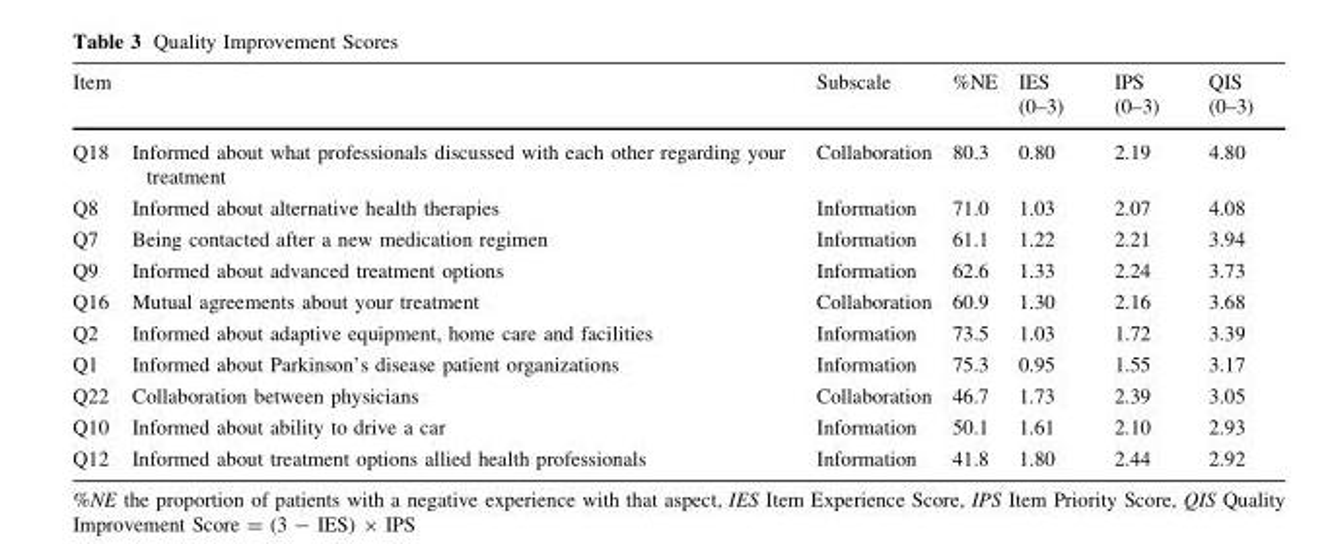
<table><thead><tr><td>Item</td><td></td><td>Subscale</td><td>%NE</td><td>IES (0–3)</td><td>IPS (0–3)</td><td>QIS (0–3)</td></tr></thead><tbody><tr><td>Q18</td><td>Informed about what professionals discussed with each other regarding your treatment</td><td>Collaboration</td><td>80.3</td><td>0.80</td><td>2.19</td><td>4.80</td></tr><tr><td>Q8</td><td>Informed about alternative health therapies</td><td>Information</td><td>71.0</td><td>1.03</td><td>2.07</td><td>4.08</td></tr><tr><td>Q7</td><td>Being contacted after a new medication regimen</td><td>Information</td><td>61.1</td><td>1.22</td><td>2.21</td><td>3.94</td></tr><tr><td>Q9</td><td>Informed about advanced treatment options</td><td>Information</td><td>62.6</td><td>1.33</td><td>2.24</td><td>3.73</td></tr><tr><td>Q16</td><td>Mutual agreements about your treatment</td><td>Collaboration</td><td>60.9</td><td>1.30</td><td>2.16</td><td>3.68</td></tr><tr><td>Q2</td><td>Informed about adaptive equipment, home care and facilities</td><td>Information</td><td>73.5</td><td>1.03</td><td>1.72</td><td>3.39</td></tr><tr><td>Q1</td><td>Informed about Parkinson’s disease patient organizations</td><td>Information</td><td>75.3</td><td>0.95</td><td>1.55</td><td>3.17</td></tr><tr><td>Q22</td><td>Collaboration between physicians</td><td>Collaboration</td><td>46.7</td><td>1.73</td><td>2.39</td><td>3.05</td></tr><tr><td>Q10</td><td>Informed about ability to drive a car</td><td>Information</td><td>50.1</td><td>1.61</td><td>2.10</td><td>2.93</td></tr><tr><td>Q12</td><td>Informed about treatment options allied health professionals</td><td>Information</td><td>41.8</td><td>1.80</td><td>2.44</td><td>2.92</td></tr></tbody></table>